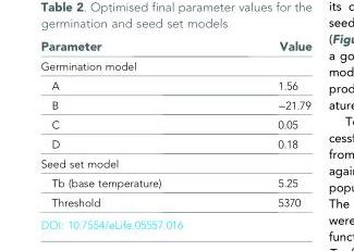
<table><thead><tr><td>Parameter</td><td>Value</td></tr></thead><tbody><tr><td colspan="2">Germination model</td></tr><tr><td>A</td><td>1.56</td></tr><tr><td>B</td><td>−21.79</td></tr><tr><td>C</td><td>0.05</td></tr><tr><td>D</td><td>0.18</td></tr><tr><td colspan="2">Seed set model</td></tr><tr><td>Tb (base temperature)</td><td>5.25</td></tr><tr><td>Threshold</td><td>5370</td></tr></tbody></table>